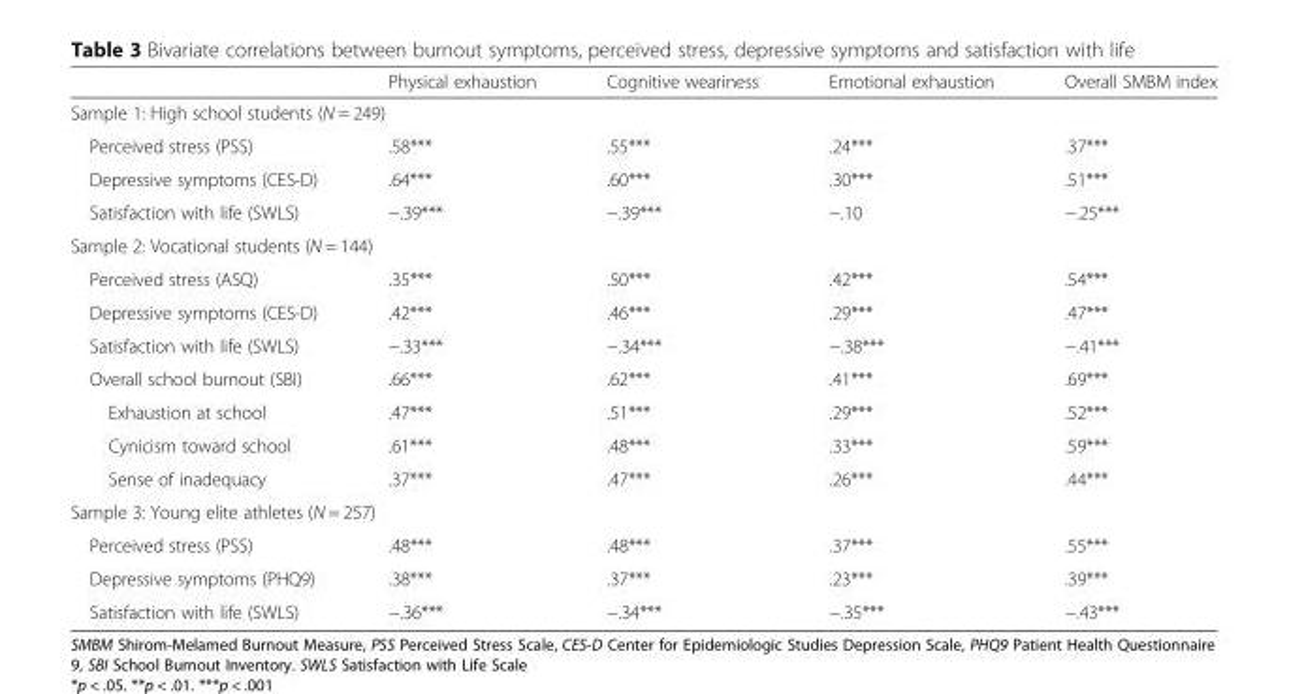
<table><thead><tr><td></td><td>Physical exhaustion</td><td>Cognitive weariness</td><td>Emotional exhaustion</td><td>Overall SMBM index</td></tr></thead><tbody><tr><td colspan="5">Sample 1: High school students (N = 249)</td></tr><tr><td>Perceived stress (PSS)</td><td>.58***</td><td>.55***</td><td>.24***</td><td>.37***</td></tr><tr><td>Depressive symptoms (CES-D)</td><td>.64***</td><td>.60***</td><td>.30***</td><td>.51***</td></tr><tr><td>Satisfaction with life (SWLS)</td><td>−.39***</td><td>−.39***</td><td>−.10</td><td>−.25***</td></tr><tr><td colspan="5">Sample 2: Vocational students (N = 144)</td></tr><tr><td>Perceived stress (ASQ)</td><td>.35***</td><td>.50***</td><td>.42***</td><td>.54***</td></tr><tr><td>Depressive symptoms (CES-D)</td><td>.42***</td><td>.46***</td><td>.29***</td><td>.47***</td></tr><tr><td>Satisfaction with life (SWLS)</td><td>−.33***</td><td>−.34***</td><td>−.38***</td><td>−.41***</td></tr><tr><td>Overall school burnout (SBI)</td><td>.66***</td><td>.62***</td><td>.41***</td><td>.69***</td></tr><tr><td>Exhaustion at school</td><td>.47***</td><td>.51***</td><td>.29***</td><td>.52***</td></tr><tr><td>Cynicism toward school</td><td>.61***</td><td>.48***</td><td>.33***</td><td>.59***</td></tr><tr><td>Sense of inadequacy</td><td>.37***</td><td>.47***</td><td>.26***</td><td>.44***</td></tr><tr><td colspan="5">Sample 3: Young elite athletes (N = 257)</td></tr><tr><td>Perceived stress (PSS)</td><td>.48***</td><td>.48***</td><td>.37***</td><td>.55***</td></tr><tr><td>Depressive symptoms (PHQ9)</td><td>.38***</td><td>.37***</td><td>.23***</td><td>.39***</td></tr><tr><td>Satisfaction with life (SWLS)</td><td>−.36***</td><td>−.34***</td><td>−.35***</td><td>−.43***</td></tr></tbody></table>